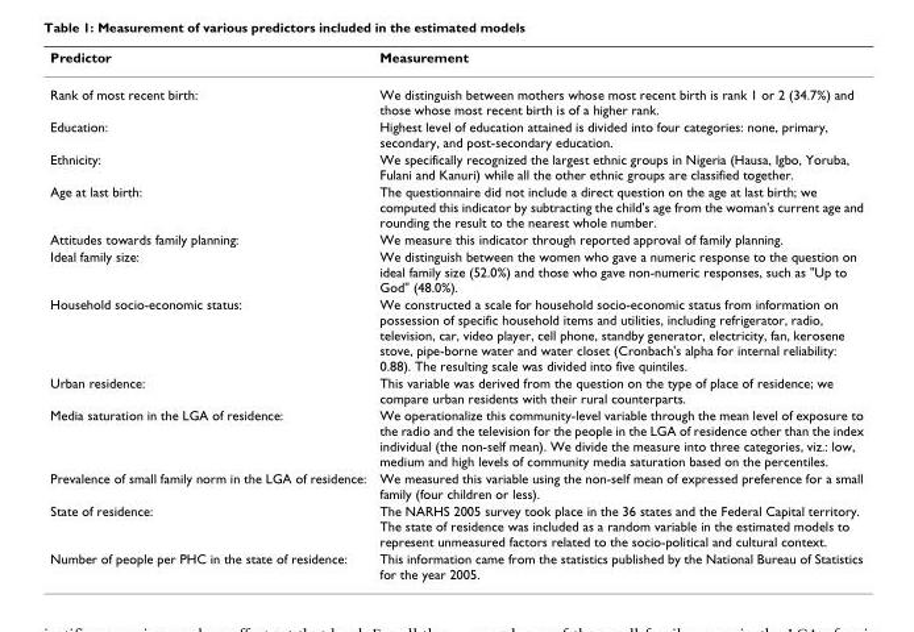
<table><thead><tr><td>Predictor</td><td>Measurement</td></tr></thead><tbody><tr><td>Rank of most recent birth:</td><td>We distinguish between mothers whose most recent birth is rank 1 or 2 (34.7%) and those whose most recent birth is of a higher rank.</td></tr><tr><td>Education:</td><td>Highest level of education attained is divided into four categories: none, primary, secondary, and post-secondary education.</td></tr><tr><td>Ethnicity:</td><td>We specifically recognized the largest ethnic groups in Nigeria (Hausa, Igbo, Yoruba, Fulani and Kanuri) while all the other ethnic groups are classified together.</td></tr><tr><td>Age at last birth:</td><td>The questionnaire did not include a direct question on the age at last birth; we computed this indicator by subtracting the child&#x27;s age from the woman&#x27;s current age and rounding the result to the nearest whole number.</td></tr><tr><td>Attitudes towards family planning:</td><td>We measure this indicator through reported approval of family planning.</td></tr><tr><td>Ideal family size:</td><td>We distinguish between the women who gave a numeric response to the question on ideal family size (52.0%) and those who gave non-numeric responses, such as &quot;Up to God&quot; (48.0%).</td></tr><tr><td>Household socio-economic status:</td><td>We constructed a scale for household socio-economic status from information on possession of specific household items and utilities, including refrigerator, radio, television, car, video player, cell phone, standby generator, electricity, fan, kerosene stove, pipe-borne water and water closet (Cronbach&#x27;s alpha for internal reliability: 0.88). The resulting scale was divided into five quintiles.</td></tr><tr><td>Urban residence:</td><td>This variable was derived from the question on the type of place of residence; we compare urban residents with their rural counterparts.</td></tr><tr><td>Media saturation in the LGA of residence:</td><td>We operationalize this community-level variable through the mean level of exposure to the radio and the television for the people in the LGA of residence other than the index individual (the non-self mean). We divide the measure into three categories, viz.: low, medium and high levels of community media saturation based on the percentiles.</td></tr><tr><td>Prevalence of small family norm in the LGA of residence:</td><td>We measured this variable using the non-self mean of expressed preference for a small family (four children or less).</td></tr><tr><td>State of residence:</td><td>The NARHS 2005 survey took place in the 36 states and the Federal Capital territory. The state of residence was included as a random variable in the estimated models to represent unmeasured factors related to the socio-political and cultural context.</td></tr><tr><td>Number of people per PHC in the state of residence:</td><td>This information came from the statistics published by the National Bureau of Statistics for the year 2005.</td></tr></tbody></table>